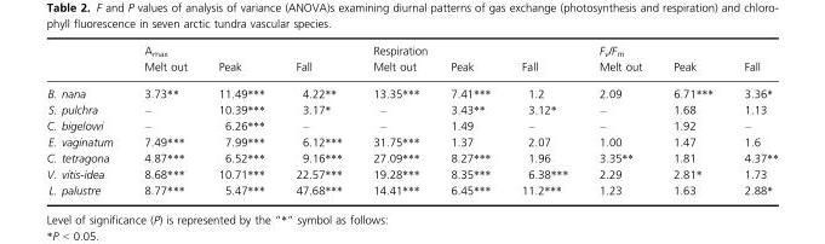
<table><thead><tr><td rowspan="2"></td><td colspan="3">A<sub>max</sub></td><td colspan="3">Respiration</td><td colspan="3">F<sub>v</sub>/F<sub>m</sub></td></tr><tr><td>Melt out</td><td>Peak</td><td>Fall</td><td>Melt out</td><td>Peak</td><td>Fall</td><td>Melt out</td><td>Peak</td><td>Fall</td></tr></thead><tbody><tr><td>B. nana</td><td>3.73**</td><td>11.49***</td><td>4.22**</td><td>13.35***</td><td>7.41***</td><td>1.2</td><td>2.09</td><td>6.71***</td><td>3.36*</td></tr><tr><td>S. pulchra</td><td>–</td><td>10.39***</td><td>3.17*</td><td>–</td><td>3.43**</td><td>3.12*</td><td>–</td><td>1.68</td><td>1.13</td></tr><tr><td>C. bigelowi</td><td>–</td><td>6.26***</td><td>–</td><td>–</td><td>1.49</td><td>–</td><td>–</td><td>1.92</td><td>–</td></tr><tr><td>E. vaginatum</td><td>7.49***</td><td>7.99***</td><td>6.12***</td><td>31.75***</td><td>1.37</td><td>2.07</td><td>1.00</td><td>1.47</td><td>1.6</td></tr><tr><td>C. tetragona</td><td>4.87***</td><td>6.52***</td><td>9.16***</td><td>27.09***</td><td>8.27***</td><td>1.96</td><td>3.35**</td><td>1.81</td><td>4.37**</td></tr><tr><td>V. vitis-idea</td><td>8.68***</td><td>10.71***</td><td>22.57***</td><td>19.28***</td><td>8.35***</td><td>6.38***</td><td>2.29</td><td>2.81*</td><td>1.73</td></tr><tr><td>L. palustre</td><td>8.77***</td><td>5.47***</td><td>47.68***</td><td>14.41***</td><td>6.45***</td><td>11.2***</td><td>1.23</td><td>1.63</td><td>2.88*</td></tr></tbody></table>